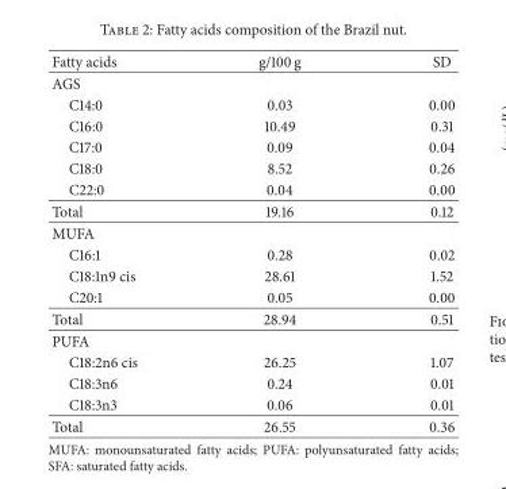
<table><thead><tr><td>Fatty acids</td><td>g/100 g</td><td>SD</td></tr></thead><tbody><tr><td colspan="3">AGS</td></tr><tr><td>C14:0</td><td>0.03</td><td>0.00</td></tr><tr><td>C16:0</td><td>10.49</td><td>0.31</td></tr><tr><td>C17:0</td><td>0.09</td><td>0.04</td></tr><tr><td>C18:0</td><td>8.52</td><td>0.26</td></tr><tr><td>C22:0</td><td>0.04</td><td>0.00</td></tr><tr><td>Total</td><td>19.16</td><td>0.12</td></tr><tr><td colspan="3">MUFA</td></tr><tr><td>C16:1</td><td>0.28</td><td>0.02</td></tr><tr><td>C18:1n9 cis</td><td>28.61</td><td>1.52</td></tr><tr><td>C20:1</td><td>0.05</td><td>0.00</td></tr><tr><td>Total</td><td>28.94</td><td>0.51</td></tr><tr><td colspan="3">PUFA</td></tr><tr><td>C18:2n6 cis</td><td>26.25</td><td>1.07</td></tr><tr><td>C18:3n6</td><td>0.24</td><td>0.01</td></tr><tr><td>C18:3n3</td><td>0.06</td><td>0.01</td></tr><tr><td>Total</td><td>26.55</td><td>0.36</td></tr></tbody></table>